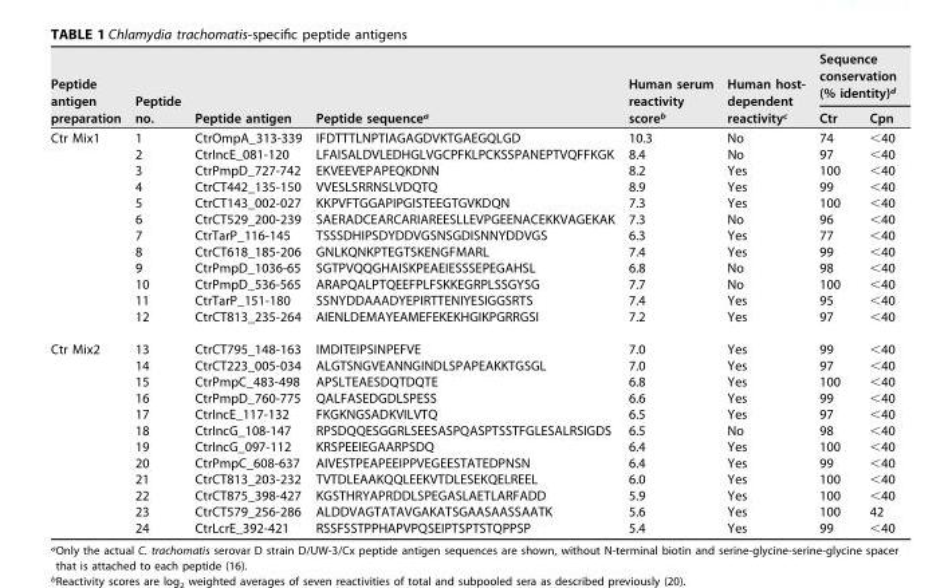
<table><thead><tr><td rowspan="2">Peptide antigen preparation</td><td rowspan="2">Peptide no.</td><td rowspan="2">Peptide antigen</td><td rowspan="2">Peptide sequence<sup>a</sup></td><td rowspan="2">Human serum reactivity score<sup>b</sup></td><td rowspan="2">Human host- dependent reactivity<sup>c</sup></td><td colspan="2">Sequence conservation (% identity)<sup>d</sup></td></tr><tr><td>Ctr</td><td>Cpn</td></tr></thead><tbody><tr><td rowspan="12">Ctr Mix1</td><td>1</td><td>CtrOmpA_313-339</td><td>IFDTTTLNPTIAGAGDVKTGAEGQLGD</td><td>10.3</td><td>No</td><td>74</td><td>&lt;40</td></tr><tr><td>2</td><td>CtrIncE_081-120</td><td>LFAISALDVLEDHGLVGCPFKLPCKSSPANEPTVQFFKGK</td><td>8.4</td><td>No</td><td>97</td><td>&lt;40</td></tr><tr><td>3</td><td>CtrPmpD_727-742</td><td>EKVEEVEPAPEQKDNN</td><td>8.2</td><td>Yes</td><td>100</td><td>&lt;40</td></tr><tr><td>4</td><td>CtrCT442_135-150</td><td>VVESLSRRNSLVDQTQ</td><td>8.9</td><td>Yes</td><td>99</td><td>&lt;40</td></tr><tr><td>5</td><td>CtrCT143_002-027</td><td>KKPVFTGGAPIPGISTEEGTGVKDQN</td><td>7.3</td><td>Yes</td><td>100</td><td>&lt;40</td></tr><tr><td>6</td><td>CtrCT529_200-239</td><td>SAERADCEARCARIAREESLLEVPGEENACEKKVAGEKAK</td><td>7.3</td><td>No</td><td>96</td><td>&lt;40</td></tr><tr><td>7</td><td>CtrTarP_116-145</td><td>TSSSDHIPSDYDDVGSNSGDISNNYDDVGS</td><td>6.3</td><td>Yes</td><td>77</td><td>&lt;40</td></tr><tr><td>8</td><td>CtrCT618_185-206</td><td>GNLKQNKPTEGTSKENGFMARL</td><td>7.4</td><td>Yes</td><td>99</td><td>&lt;40</td></tr><tr><td>9</td><td>CtrPmpD_1036-65</td><td>SGTPVQQGHAISKPEAEIESSSEPEGAHSL</td><td>6.8</td><td>No</td><td>98</td><td>&lt;40</td></tr><tr><td>10</td><td>CtrPmpD_536-565</td><td>ARAPQALPTQEEFPLFSKKEGRPLSSGYSG</td><td>7.7</td><td>No</td><td>100</td><td>&lt;40</td></tr><tr><td>11</td><td>CtrTarP_151-180</td><td>SSNYDDAAADYEPIRTTENIYESIGGSRTS</td><td>7.4</td><td>Yes</td><td>95</td><td>&lt;40</td></tr><tr><td>12</td><td>CtrCT813_235-264</td><td>AIENLDEMAYEAMEFEKEKHGIKPGRRGSI</td><td>7.2</td><td>Yes</td><td>97</td><td>&lt;40</td></tr><tr><td rowspan="12">Ctr Mix2</td><td>13</td><td>CtrCT795_148-163</td><td>IMDITEIPSINPEFVE</td><td>7.0</td><td>Yes</td><td>99</td><td>&lt;40</td></tr><tr><td>14</td><td>CtrCT223_005-034</td><td>ALGTSNGVEANNGINDLSPAPEAKKTGSGL</td><td>7.0</td><td>Yes</td><td>97</td><td>&lt;40</td></tr><tr><td>15</td><td>CtrPmpC_483-498</td><td>APSLTEAESDQTDQTE</td><td>6.8</td><td>Yes</td><td>100</td><td>&lt;40</td></tr><tr><td>16</td><td>CtrPmpD_760-775</td><td>QALFASEDGDLSPESS</td><td>6.6</td><td>Yes</td><td>99</td><td>&lt;40</td></tr><tr><td>17</td><td>CtrIncE_117-132</td><td>FKGKNGSADKVILVTQ</td><td>6.5</td><td>Yes</td><td>97</td><td>&lt;40</td></tr><tr><td>18</td><td>CtrIncG_108-147</td><td>RPSDQQESGGRLSEESASPQASPTSSTFGLESALRSIGDS</td><td>6.5</td><td>No</td><td>98</td><td>&lt;40</td></tr><tr><td>19</td><td>CtrIncG_097-112</td><td>KRSPEEIEGAARPSDQ</td><td>6.4</td><td>Yes</td><td>100</td><td>&lt;40</td></tr><tr><td>20</td><td>CtrPmpC_608-637</td><td>AIVESTPEAPEEIPPVEGEESTATEDPNSN</td><td>6.4</td><td>Yes</td><td>99</td><td>&lt;40</td></tr><tr><td>21</td><td>CtrCT813_203-232</td><td>TVTDLEAAKQQLEEKVTDLESEKQELREEL</td><td>6.0</td><td>Yes</td><td>100</td><td>&lt;40</td></tr><tr><td>22</td><td>CtrCT875_398-427</td><td>KGSTHRYAPRDDLSPEGASLAETLARFADD</td><td>5.9</td><td>Yes</td><td>100</td><td>&lt;40</td></tr><tr><td>23</td><td>CtrCT579_256-286</td><td>ALDDVAGTATAVGAKATSGAASAASSAATK</td><td>5.6</td><td>Yes</td><td>100</td><td>42</td></tr><tr><td>24</td><td>CtrLcrE_392-421</td><td>RSSFSSTPPHAPVPQSEIPTSPTSTQPPSP</td><td>5.4</td><td>Yes</td><td>99</td><td>&lt;40</td></tr></tbody></table>